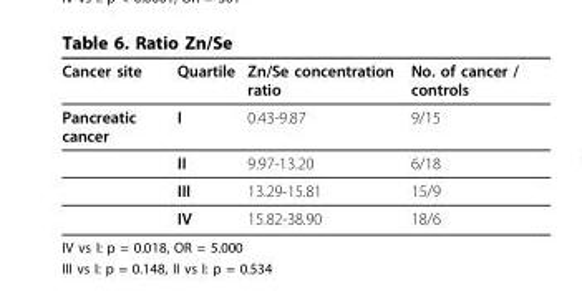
<table><thead><tr><td>Cancer site</td><td>Quartile</td><td>Zn/Se concentration ratio</td><td>No. of cancer / controls</td></tr></thead><tbody><tr><td rowspan="4">Pancreatic cancer</td><td>I</td><td>0.43-9.87</td><td>9/15</td></tr><tr><td>II</td><td>9.97-13.20</td><td>6/18</td></tr><tr><td>III</td><td>13.29-15.81</td><td>15/9</td></tr><tr><td>IV</td><td>15.82-38.90</td><td>18/6</td></tr></tbody></table>